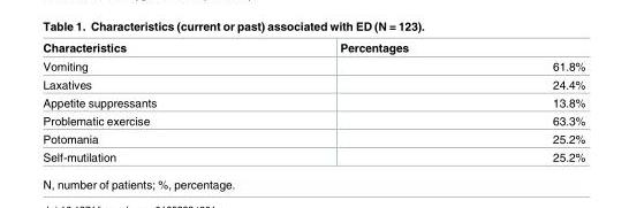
<table><thead><tr><td>Characteristics</td><td>Percentages</td></tr></thead><tbody><tr><td>Vomiting</td><td>61.8%</td></tr><tr><td>Laxatives</td><td>24.4%</td></tr><tr><td>Appetite suppressants</td><td>13.8%</td></tr><tr><td>Problematic exercise</td><td>63.3%</td></tr><tr><td>Potomania</td><td>25.2%</td></tr><tr><td>Self-mutilation</td><td>25.2%</td></tr></tbody></table>